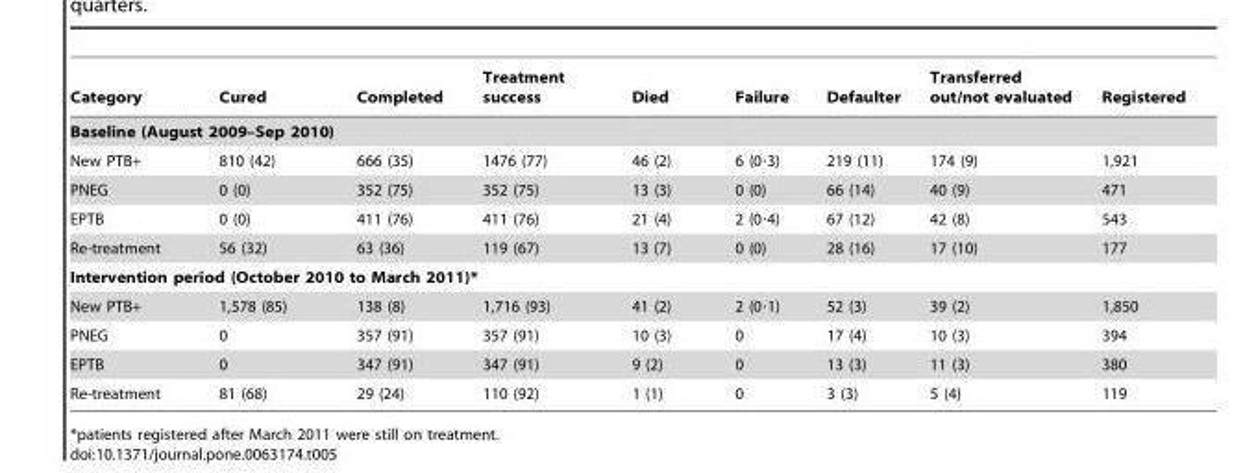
<table><thead><tr><td>Category</td><td>Cured</td><td>Completed</td><td>Treatment success</td><td>Died</td><td>Failure</td><td>Defaulter</td><td>Transferred out/not evaluated</td><td>Registered</td></tr></thead><tbody><tr><td colspan="9">Baseline (August 2009–Sep 2010)</td></tr><tr><td>New PTB+</td><td>810 (42)</td><td>666 (35)</td><td>1476 (77)</td><td>46 (2)</td><td>6 (0·3)</td><td>219 (11)</td><td>174 (9)</td><td>1,921</td></tr><tr><td>PNEG</td><td>0 (0)</td><td>352 (75)</td><td>352 (75)</td><td>13 (3)</td><td>0 (0)</td><td>66 (14)</td><td>40 (9)</td><td>471</td></tr><tr><td>EPTB</td><td>0 (0)</td><td>411 (76)</td><td>411 (76)</td><td>21 (4)</td><td>2 (0·4)</td><td>67 (12)</td><td>42 (8)</td><td>543</td></tr><tr><td>Re-treatment</td><td>56 (32)</td><td>63 (36)</td><td>119 (67)</td><td>13 (7)</td><td>0 (0)</td><td>28 (16)</td><td>17 (10)</td><td>177</td></tr><tr><td colspan="9">Intervention period (October 2010 to March 2011)*</td></tr><tr><td>New PTB+</td><td>1,578 (85)</td><td>138 (8)</td><td>1,716 (93)</td><td>41 (2)</td><td>2 (0·1)</td><td>52 (3)</td><td>39 (2)</td><td>1,850</td></tr><tr><td>PNEG</td><td>0</td><td>357 (91)</td><td>357 (91)</td><td>10 (3)</td><td>0</td><td>17 (4)</td><td>10 (3)</td><td>394</td></tr><tr><td>EPTB</td><td>0</td><td>347 (91)</td><td>347 (91)</td><td>9 (2)</td><td>0</td><td>13 (3)</td><td>11 (3)</td><td>380</td></tr><tr><td>Re-treatment</td><td>81 (68)</td><td>29 (24)</td><td>110 (92)</td><td>1 (1)</td><td>0</td><td>3 (3)</td><td>5 (4)</td><td>119</td></tr></tbody></table>